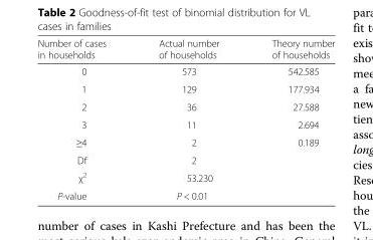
<table><thead><tr><td>Number of cases in households</td><td>Actual number of households</td><td>Theory number of households</td></tr></thead><tbody><tr><td>0</td><td>573</td><td>542.585</td></tr><tr><td>1</td><td>129</td><td>177.934</td></tr><tr><td>2</td><td>36</td><td>27.588</td></tr><tr><td>3</td><td>11</td><td>2.694</td></tr><tr><td>≥4</td><td>2</td><td>0.189</td></tr><tr><td>Df</td><td colspan="2">2</td></tr><tr><td>χ<sup>2</sup></td><td colspan="2">53.230</td></tr><tr><td>P-value</td><td colspan="2">P &lt; 0.01</td></tr></tbody></table>